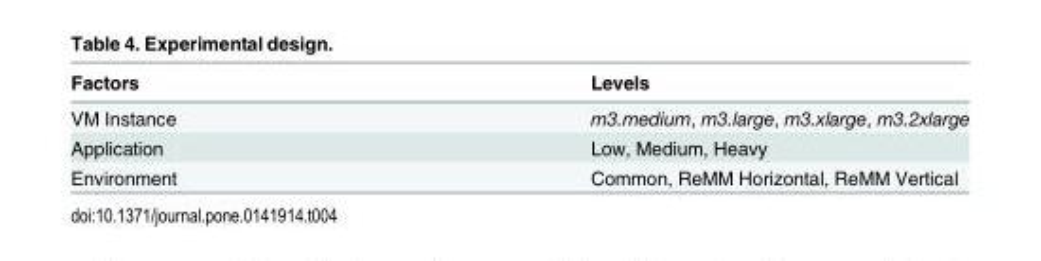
<table><thead><tr><td>Factors</td><td>Levels</td></tr></thead><tbody><tr><td>VM Instance</td><td>m3.medium, m3.large, m3.xlarge, m3.2xlarge</td></tr><tr><td>Application</td><td>Low, Medium, Heavy</td></tr><tr><td>Environment</td><td>Common, ReMM Horizontal, ReMM Vertical</td></tr></tbody></table>